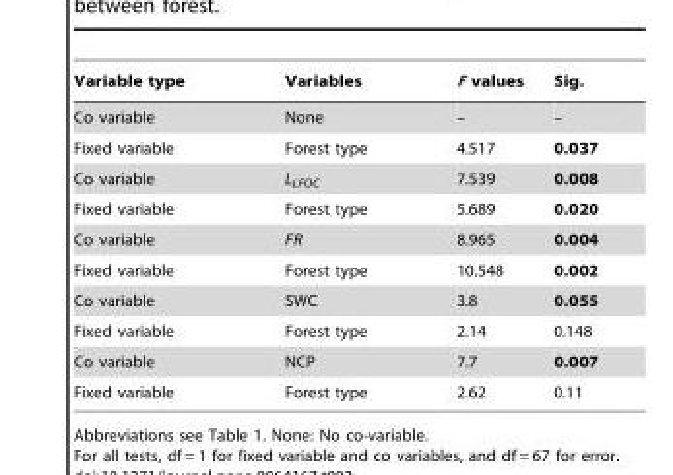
<table><thead><tr><td>Variable type</td><td>Variables</td><td>F values</td><td>Sig.</td></tr></thead><tbody><tr><td>Co variable</td><td>None</td><td>–</td><td>–</td></tr><tr><td>Fixed variable</td><td>Forest type</td><td>4.517</td><td>0.037</td></tr><tr><td>Co variable</td><td>L<sub>LFOC</sub></td><td>7.539</td><td>0.008</td></tr><tr><td>Fixed variable</td><td>Forest type</td><td>5.689</td><td>0.020</td></tr><tr><td>Co variable</td><td>FR</td><td>8.965</td><td>0.004</td></tr><tr><td>Fixed variable</td><td>Forest type</td><td>10.548</td><td>0.002</td></tr><tr><td>Co variable</td><td>SWC</td><td>3.8</td><td>0.055</td></tr><tr><td>Fixed variable</td><td>Forest type</td><td>2.14</td><td>0.148</td></tr><tr><td>Co variable</td><td>NCP</td><td>7.7</td><td>0.007</td></tr><tr><td>Fixed variable</td><td>Forest type</td><td>2.62</td><td>0.11</td></tr></tbody></table>